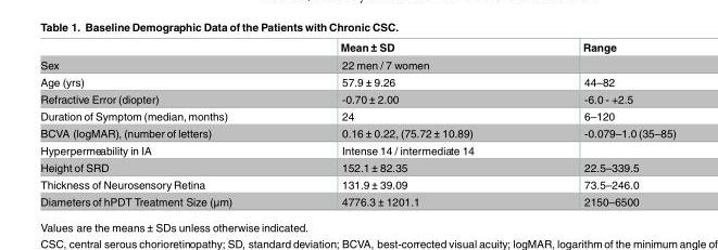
<table><thead><tr><td></td><td>Mean ± SD</td><td>Range</td></tr></thead><tbody><tr><td>Sex</td><td>22 men / 7 women</td><td></td></tr><tr><td>Age (yrs)</td><td>57.9 ± 9.26</td><td>44–82</td></tr><tr><td>Refractive Error (diopter)</td><td>-0.70 ± 2.00</td><td>-6.0 - +2.5</td></tr><tr><td>Duration of Symptom (median, months)</td><td>24</td><td>6–120</td></tr><tr><td>BCVA (logMAR), (number of letters)</td><td>0.16 ± 0.22, (75.72 ± 10.89)</td><td>-0.079–1.0 (35–85)</td></tr><tr><td>Hyperpermeability in IA</td><td>Intense 14 / intermediate 14</td><td></td></tr><tr><td>Height of SRD</td><td>152.1 ± 82.35</td><td>22.5–339.5</td></tr><tr><td>Thickness of Neurosensory Retina</td><td>131.9 ± 39.09</td><td>73.5–246.0</td></tr><tr><td>Diameters of hPDT Treatment Size (μm)</td><td>4776.3 ± 1201.1</td><td>2150–6500</td></tr></tbody></table>